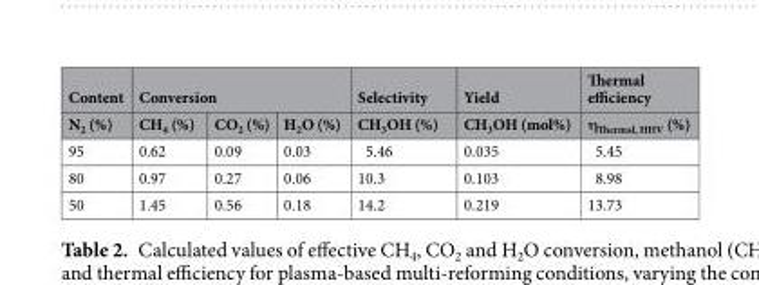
<table><thead><tr><td rowspan="2">Content N<sub>2</sub> (%)</td><td colspan="3">Conversion</td><td rowspan="2">Selectivity CH<sub>3</sub>OH (%)</td><td rowspan="2">Yield CH<sub>3</sub>OH (mol%)</td><td rowspan="2">Thermal efficiency η<sub>Thermal, HHV</sub> (%)</td></tr><tr><td>CH<sub>4</sub> (%)</td><td>CO<sub>2</sub> (%)</td><td>H<sub>2</sub>O (%)</td></tr></thead><tbody><tr><td>95</td><td>0.62</td><td>0.09</td><td>0.03</td><td>5.46</td><td>0.035</td><td>5.45</td></tr><tr><td>80</td><td>0.97</td><td>0.27</td><td>0.06</td><td>10.3</td><td>0.103</td><td>8.98</td></tr><tr><td>50</td><td>1.45</td><td>0.56</td><td>0.18</td><td>14.2</td><td>0.219</td><td>13.73</td></tr></tbody></table>